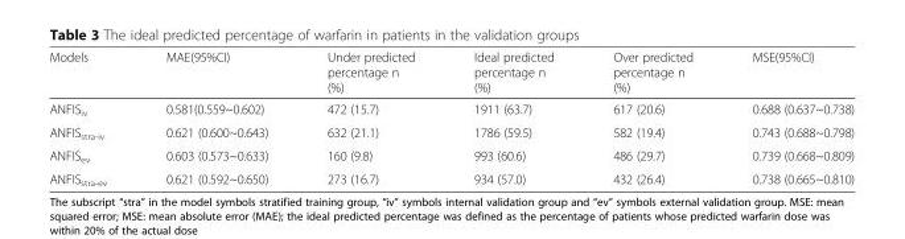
<table><thead><tr><td>Models</td><td>MAE(95%CI)</td><td>Under predicted percentage n (%)</td><td>Ideal predicted percentage n (%)</td><td>Over predicted percentage n (%)</td><td>MSE(95%CI)</td></tr></thead><tbody><tr><td>ANFIS<sub>iv</sub></td><td>0.581(0.559~0.602)</td><td>472 (15.7)</td><td>1911 (63.7)</td><td>617 (20.6)</td><td>0.688 (0.637~0.738)</td></tr><tr><td>ANFIS<sub>stra-iv</sub></td><td>0.621 (0.600~0.643)</td><td>632 (21.1)</td><td>1786 (59.5)</td><td>582 (19.4)</td><td>0.743 (0.688~0.798)</td></tr><tr><td>ANFIS<sub>ev</sub></td><td>0.603 (0.573~0.633)</td><td>160 (9.8)</td><td>993 (60.6)</td><td>486 (29.7)</td><td>0.739 (0.668~0.809)</td></tr><tr><td>ANFIS<sub>stra-ev</sub></td><td>0.621 (0.592~0.650)</td><td>273 (16.7)</td><td>934 (57.0)</td><td>432 (26.4)</td><td>0.738 (0.665~0.810)</td></tr></tbody></table>